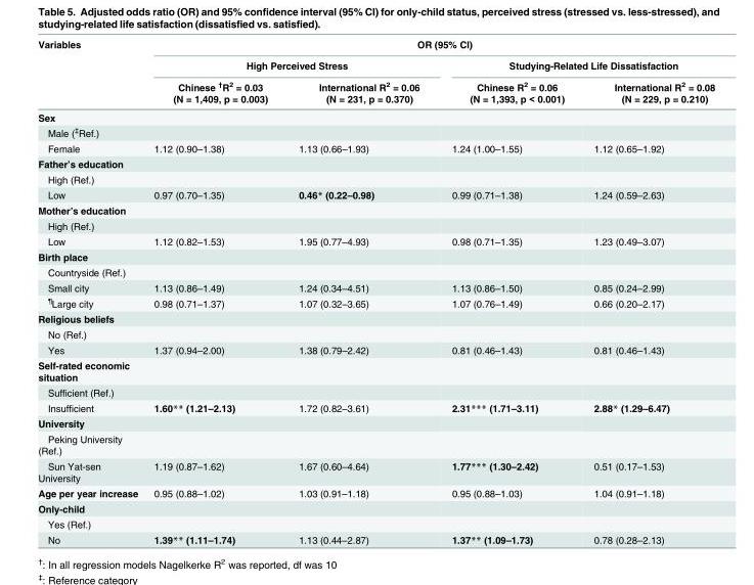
<table><thead><tr><td rowspan="3">Variables</td><td colspan="4">OR (95% CI)</td></tr><tr><td colspan="2">High Perceived Stress</td><td colspan="2">Studying-Related Life Dissatisfaction</td></tr><tr><td>Chinese <sup>†</sup>R<sup>2</sup> = 0.03 (N = 1,409, p = 0.003)</td><td>International R<sup>2</sup> = 0.06 (N = 231, p = 0.370)</td><td>Chinese R<sup>2</sup> = 0.06 (N = 1,393, p &lt; 0.001)</td><td>International R<sup>2</sup> = 0.08 (N = 229, p = 0.210)</td></tr></thead><tbody><tr><td colspan="5">Sex</td></tr><tr><td colspan="5">Male (<sup>‡</sup>Ref.)</td></tr><tr><td>Female</td><td>1.12 (0.90–1.38)</td><td>1.13 (0.66–1.93)</td><td>1.24 (1.00–1.55)</td><td>1.12 (0.65–1.92)</td></tr><tr><td colspan="5">Father’s education</td></tr><tr><td colspan="5">High (Ref.)</td></tr><tr><td>Low</td><td>0.97 (0.70–1.35)</td><td>0.46* (0.22–0.98)</td><td>0.99 (0.71–1.38)</td><td>1.24 (0.59–2.63)</td></tr><tr><td colspan="5">Mother’s education</td></tr><tr><td colspan="5">High (Ref.)</td></tr><tr><td>Low</td><td>1.12 (0.82–1.53)</td><td>1.95 (0.77–4.93)</td><td>0.98 (0.71–1.35)</td><td>1.23 (0.49–3.07)</td></tr><tr><td colspan="5">Birth place</td></tr><tr><td colspan="5">Countryside (Ref.)</td></tr><tr><td>Small city</td><td>1.13 (0.86–1.49)</td><td>1.24 (0.34–4.51)</td><td>1.13 (0.86–1.50)</td><td>0.85 (0.24–2.99)</td></tr><tr><td><sup>¶</sup>Large city</td><td>0.98 (0.71–1.37)</td><td>1.07 (0.32–3.65)</td><td>1.07 (0.76–1.49)</td><td>0.66 (0.20–2.17)</td></tr><tr><td colspan="5">Religious beliefs</td></tr><tr><td colspan="5">No (Ref.)</td></tr><tr><td>Yes</td><td>1.37 (0.94–2.00)</td><td>1.38 (0.79–2.42)</td><td>0.81 (0.46–1.43)</td><td>0.81 (0.46–1.43)</td></tr><tr><td colspan="5">Self-rated economic situation</td></tr><tr><td colspan="5">Sufficient (Ref.)</td></tr><tr><td>Insufficient</td><td>1.60** (1.21–2.13)</td><td>1.72 (0.82–3.61)</td><td>2.31*** (1.71–3.11)</td><td>2.88* (1.29–6.47)</td></tr><tr><td colspan="5">University</td></tr><tr><td colspan="5">Peking University (Ref.)</td></tr><tr><td>Sun Yat-sen University</td><td>1.19 (0.87–1.62)</td><td>1.67 (0.60–4.64)</td><td>1.77*** (1.30–2.42)</td><td>0.51 (0.17–1.53)</td></tr><tr><td>Age per year increase</td><td>0.95 (0.88–1.02)</td><td>1.03 (0.91–1.18)</td><td>0.95 (0.88–1.03)</td><td>1.04 (0.91–1.18)</td></tr><tr><td colspan="5">Only-child</td></tr><tr><td colspan="5">Yes (Ref.)</td></tr><tr><td>No</td><td>1.39** (1.11–1.74)</td><td>1.13 (0.44–2.87)</td><td>1.37** (1.09–1.73)</td><td>0.78 (0.28–2.13)</td></tr></tbody></table>